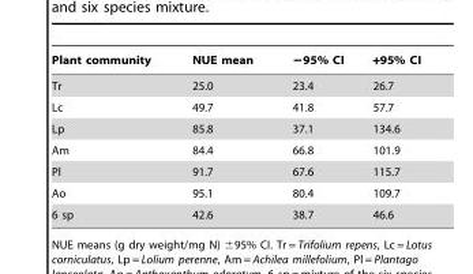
<table><thead><tr><td>Plant community</td><td>NUE mean</td><td>−95% CI</td><td>+95% CI</td></tr></thead><tbody><tr><td>Tr</td><td>25.0</td><td>23.4</td><td>26.7</td></tr><tr><td>Lc</td><td>49.7</td><td>41.8</td><td>57.7</td></tr><tr><td>Lp</td><td>85.8</td><td>37.1</td><td>134.6</td></tr><tr><td>Am</td><td>84.4</td><td>66.8</td><td>101.9</td></tr><tr><td>Pl</td><td>91.7</td><td>67.6</td><td>115.7</td></tr><tr><td>Ao</td><td>95.1</td><td>80.4</td><td>109.7</td></tr><tr><td>6 sp</td><td>42.6</td><td>38.7</td><td>46.6</td></tr></tbody></table>